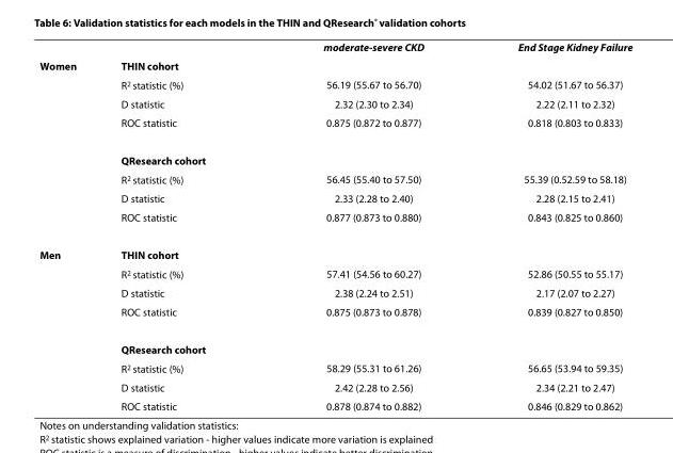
<table><thead><tr><td></td><td></td><td>moderate-severe CKD</td><td>End Stage Kidney Failure</td></tr></thead><tbody><tr><td rowspan="8">Women</td><td>THIN cohort</td><td></td><td></td></tr><tr><td>R<sup>2</sup> statistic (%)</td><td>56.19 (55.67 to 56.70)</td><td>54.02 (51.67 to 56.37)</td></tr><tr><td>D statistic</td><td>2.32 (2.30 to 2.34)</td><td>2.22 (2.11 to 2.32)</td></tr><tr><td>ROC statistic</td><td>0.875 (0.872 to 0.877)</td><td>0.818 (0.803 to 0.833)</td></tr><tr><td>QResearch cohort</td><td></td><td></td></tr><tr><td>R<sup>2</sup> statistic (%)</td><td>56.45 (55.40 to 57.50)</td><td>55.39 (0.52.59 to 58.18)</td></tr><tr><td>D statistic</td><td>2.33 (2.28 to 2.40)</td><td>2.28 (2.15 to 2.41)</td></tr><tr><td>ROC statistic</td><td>0.877 (0.873 to 0.880)</td><td>0.843 (0.825 to 0.860)</td></tr><tr><td rowspan="8">Men</td><td>THIN cohort</td><td></td><td></td></tr><tr><td>R<sup>2</sup> statistic (%)</td><td>57.41 (54.56 to 60.27)</td><td>52.86 (50.55 to 55.17)</td></tr><tr><td>D statistic</td><td>2.38 (2.24 to 2.51)</td><td>2.17 (2.07 to 2.27)</td></tr><tr><td>ROC statistic</td><td>0.875 (0.873 to 0.878)</td><td>0.839 (0.827 to 0.850)</td></tr><tr><td>QResearch cohort</td><td></td><td></td></tr><tr><td>R<sup>2</sup> statistic (%)</td><td>58.29 (55.31 to 61.26)</td><td>56.65 (53.94 to 59.35)</td></tr><tr><td>D statistic</td><td>2.42 (2.28 to 2.56)</td><td>2.34 (2.21 to 2.47)</td></tr><tr><td>ROC statistic</td><td>0.878 (0.874 to 0.882)</td><td>0.846 (0.829 to 0.862)</td></tr></tbody></table>